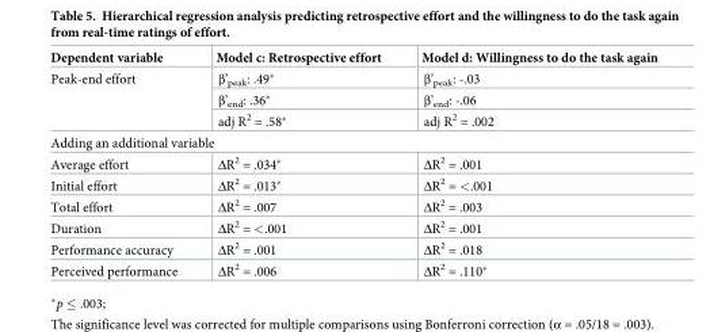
<table><thead><tr><td>Dependent variable</td><td>Model c: Retrospective effort</td><td>Model d: Willingness to do the task again</td></tr></thead><tbody><tr><td rowspan="3">Peak-end effort</td><td>β’<sub>peak</sub>: .49*</td><td>β’<sub>peak</sub>: -.03</td></tr><tr><td>β’<sub>end</sub>: .36*</td><td>β’<sub>end</sub>: -.06</td></tr><tr><td>adj R<sup>2</sup> = .58*</td><td>adj R<sup>2</sup> = .002</td></tr><tr><td colspan="3">Adding an additional variable</td></tr><tr><td>Average effort</td><td>ΔR<sup>2</sup> = .034*</td><td>ΔR<sup>2</sup> = .001</td></tr><tr><td>Initial effort</td><td>ΔR<sup>2</sup> = .013*</td><td>ΔR<sup>2</sup> = &lt;.001</td></tr><tr><td>Total effort</td><td>ΔR<sup>2</sup> = .007</td><td>ΔR<sup>2</sup> = .003</td></tr><tr><td>Duration</td><td>ΔR<sup>2</sup> = &lt;.001</td><td>ΔR<sup>2</sup> = .001</td></tr><tr><td>Performance accuracy</td><td>ΔR<sup>2</sup> = .001</td><td>ΔR<sup>2</sup> = .018</td></tr><tr><td>Perceived performance</td><td>ΔR<sup>2</sup> = .006</td><td>ΔR<sup>2</sup> = .110*</td></tr></tbody></table>